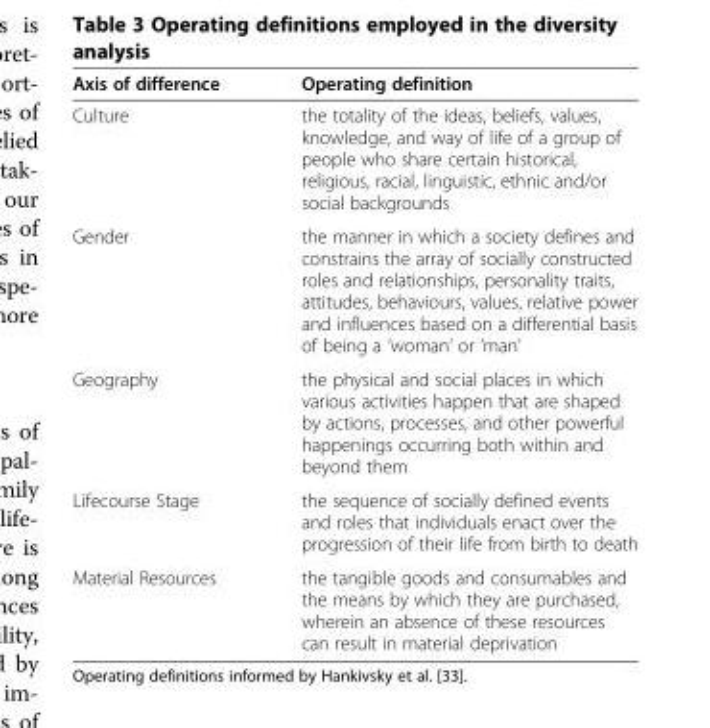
<table><thead><tr><td>Axis of difference</td><td>Operating definition</td></tr></thead><tbody><tr><td>Culture</td><td>the totality of the ideas, beliefs, values, knowledge, and way of life of a group of people who share certain historical, religious, racial, linguistic, ethnic and/or social backgrounds</td></tr><tr><td>Gender</td><td>the manner in which a society defines and constrains the array of socially constructed roles and relationships, personality traits, attitudes, behaviours, values, relative power and influences based on a differential basis of being a ‘woman’ or ‘man’</td></tr><tr><td>Geography</td><td>the physical and social places in which various activities happen that are shaped by actions, processes, and other powerful happenings occurring both within and beyond them</td></tr><tr><td>Lifecourse Stage</td><td>the sequence of socially defined events and roles that individuals enact over the progression of their life from birth to death</td></tr><tr><td>Material Resources</td><td>the tangible goods and consumables and the means by which they are purchased, wherein an absence of these resources can result in material deprivation</td></tr></tbody></table>